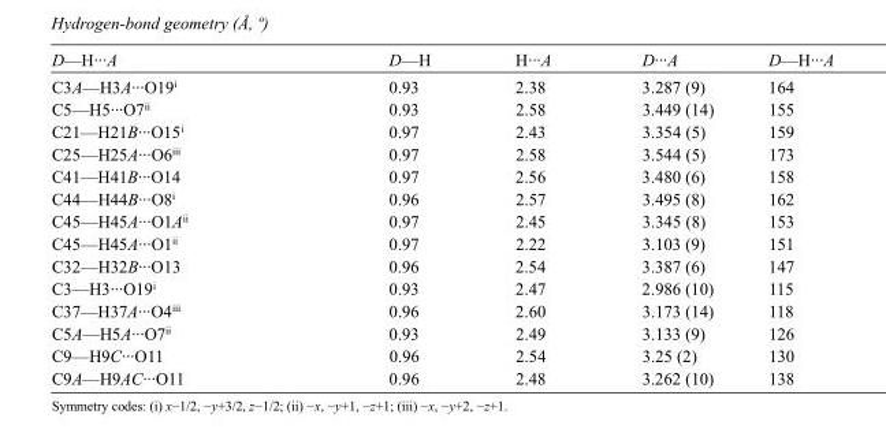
<table><tbody><tr><td>D—H···A</td><td>D—H</td><td>H···A</td><td>D···A</td><td>D—H···A</td></tr><tr><td>C3A—H3A···O19<sup>i</sup></td><td>0.93</td><td>2.38</td><td>3.287 (9)</td><td>164</td></tr><tr><td>C5—H5···O7<sup>ii</sup></td><td>0.93</td><td>2.58</td><td>3.449 (14)</td><td>155</td></tr><tr><td>C21—H21B···O15<sup>i</sup></td><td>0.97</td><td>2.43</td><td>3.354 (5)</td><td>159</td></tr><tr><td>C25—H25A···O6<sup>iii</sup></td><td>0.97</td><td>2.58</td><td>3.544 (5)</td><td>173</td></tr><tr><td>C41—H41B···O14</td><td>0.97</td><td>2.56</td><td>3.480 (6)</td><td>158</td></tr><tr><td>C44—H44B···O8<sup>i</sup></td><td>0.96</td><td>2.57</td><td>3.495 (8)</td><td>162</td></tr><tr><td>C45—H45A···O1A<sup>ii</sup></td><td>0.97</td><td>2.45</td><td>3.345 (8)</td><td>153</td></tr><tr><td>C45—H45A···O1<sup>ii</sup></td><td>0.97</td><td>2.22</td><td>3.103 (9)</td><td>151</td></tr><tr><td>C32—H32B···O13</td><td>0.96</td><td>2.54</td><td>3.387 (6)</td><td>147</td></tr><tr><td>C3—H3···O19<sup>i</sup></td><td>0.93</td><td>2.47</td><td>2.986 (10)</td><td>115</td></tr><tr><td>C37—H37A···O4<sup>iii</sup></td><td>0.96</td><td>2.60</td><td>3.173 (14)</td><td>118</td></tr><tr><td>C5A—H5A···O7<sup>ii</sup></td><td>0.93</td><td>2.49</td><td>3.133 (9)</td><td>126</td></tr><tr><td>C9—H9C···O11</td><td>0.96</td><td>2.54</td><td>3.25 (2)</td><td>130</td></tr><tr><td>C9A—H9AC···O11</td><td>0.96</td><td>2.48</td><td>3.262 (10)</td><td>138</td></tr></tbody></table>